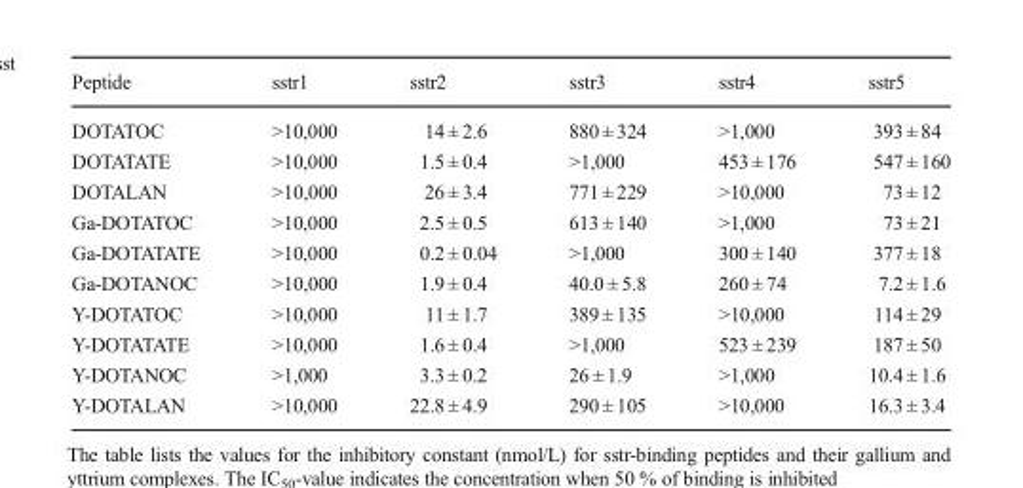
<table><thead><tr><td>Peptide</td><td>sstr1</td><td>sstr2</td><td>sstr3</td><td>sstr4</td><td>sstr5</td></tr></thead><tbody><tr><td>DOTATOC</td><td>&gt;10,000</td><td>14 ± 2.6</td><td>880 ± 324</td><td>&gt;1,000</td><td>393 ± 84</td></tr><tr><td>DOTATATE</td><td>&gt;10,000</td><td>1.5 ± 0.4</td><td>&gt;1,000</td><td>453 ± 176</td><td>547 ± 160</td></tr><tr><td>DOTALAN</td><td>&gt;10,000</td><td>26 ± 3.4</td><td>771 ± 229</td><td>&gt;10,000</td><td>73 ± 12</td></tr><tr><td>Ga-DOTATOC</td><td>&gt;10,000</td><td>2.5 ± 0.5</td><td>613 ± 140</td><td>&gt;1,000</td><td>73 ± 21</td></tr><tr><td>Ga-DOTATATE</td><td>&gt;10,000</td><td>0.2 ± 0.04</td><td>&gt;1,000</td><td>300 ± 140</td><td>377 ± 18</td></tr><tr><td>Ga-DOTANOC</td><td>&gt;10,000</td><td>1.9 ± 0.4</td><td>40.0 ± 5.8</td><td>260 ± 74</td><td>7.2 ± 1.6</td></tr><tr><td>Y-DOTATOC</td><td>&gt;10,000</td><td>11 ± 1.7</td><td>389 ± 135</td><td>&gt;10,000</td><td>114 ± 29</td></tr><tr><td>Y-DOTATATE</td><td>&gt;10,000</td><td>1.6 ± 0.4</td><td>&gt;1,000</td><td>523 ± 239</td><td>187 ± 50</td></tr><tr><td>Y-DOTANOC</td><td>&gt;1,000</td><td>3.3 ± 0.2</td><td>26 ± 1.9</td><td>&gt;1,000</td><td>10.4 ± 1.6</td></tr><tr><td>Y-DOTALAN</td><td>&gt;10,000</td><td>22.8 ± 4.9</td><td>290 ± 105</td><td>&gt;10,000</td><td>16.3 ± 3.4</td></tr></tbody></table>